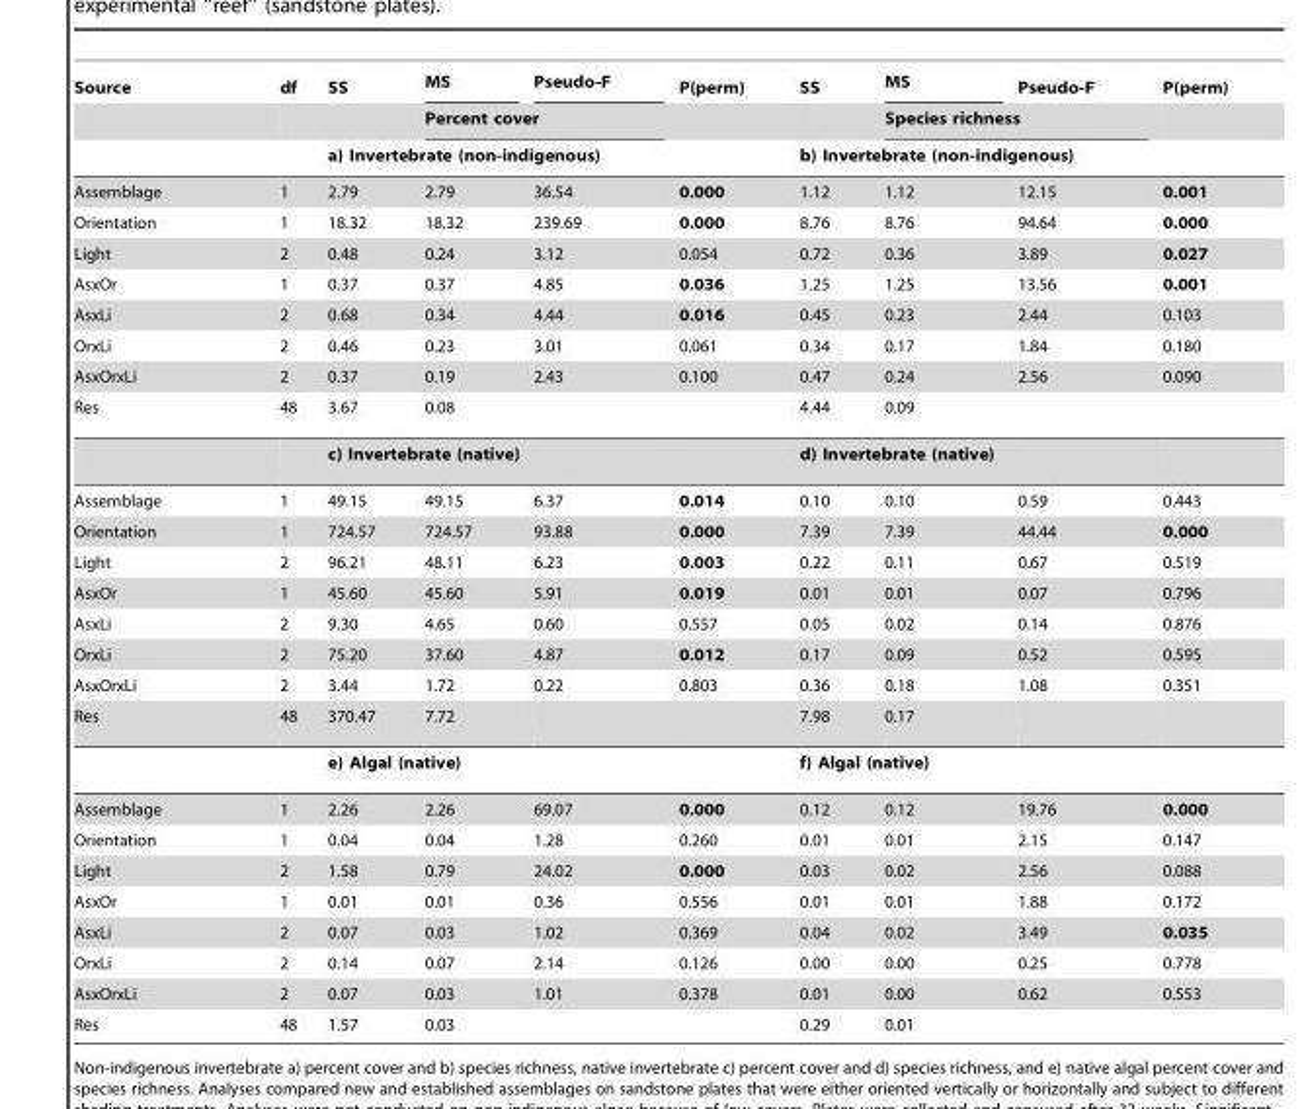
<table><thead><tr><td rowspan="3">Source</td><td rowspan="3">df</td><td rowspan="2">SS</td><td>MS</td><td>Pseudo-F</td><td rowspan="2">P(perm)</td><td rowspan="2">SS</td><td>MS</td><td>Pseudo-F</td><td rowspan="2">P(perm)</td></tr><tr><td colspan="2">Percent cover</td><td colspan="2">Species richness</td></tr><tr><td colspan="4">a) Invertebrate (non-indigenous)</td><td colspan="4">b) Invertebrate (non-indigenous)</td></tr></thead><tbody><tr><td>Assemblage</td><td>1</td><td>2.79</td><td>2.79</td><td>36.54</td><td>0.000</td><td>1.12</td><td>1.12</td><td>12.15</td><td>0.001</td></tr><tr><td>Orientation</td><td>1</td><td>18.32</td><td>18.32</td><td>239.69</td><td>0.000</td><td>8.76</td><td>8.76</td><td>94.64</td><td>0.000</td></tr><tr><td>Light</td><td>2</td><td>0.48</td><td>0.24</td><td>3.12</td><td>0.054</td><td>0.72</td><td>0.36</td><td>3.89</td><td>0.027</td></tr><tr><td>AsxOr</td><td>1</td><td>0.37</td><td>0.37</td><td>4.85</td><td>0.036</td><td>1.25</td><td>1.25</td><td>13.56</td><td>0.001</td></tr><tr><td>AsxLi</td><td>2</td><td>0.68</td><td>0.34</td><td>4.44</td><td>0.016</td><td>0.45</td><td>0.23</td><td>2.44</td><td>0.103</td></tr><tr><td>OrxLi</td><td>2</td><td>0.46</td><td>0.23</td><td>3.01</td><td>0.061</td><td>0.34</td><td>0.17</td><td>1.84</td><td>0.180</td></tr><tr><td>AsxOrxLi</td><td>2</td><td>0.37</td><td>0.19</td><td>2.43</td><td>0.100</td><td>0.47</td><td>0.24</td><td>2.56</td><td>0.090</td></tr><tr><td rowspan="2">Res</td><td>48</td><td>3.67</td><td>0.08</td><td></td><td></td><td>4.44</td><td>0.09</td><td></td><td></td></tr><tr><td></td><td colspan="3">c) Invertebrate (native)</td><td></td><td colspan="3">d) Invertebrate (native)</td><td></td></tr><tr><td>Assemblage</td><td>1</td><td>49.15</td><td>49.15</td><td>6.37</td><td>0.014</td><td>0.10</td><td>0.10</td><td>0.59</td><td>0.443</td></tr><tr><td>Orientation</td><td>1</td><td>724.57</td><td>724.57</td><td>93.88</td><td>0.000</td><td>7.39</td><td>7.39</td><td>44.44</td><td>0.000</td></tr><tr><td>Light</td><td>2</td><td>96.21</td><td>48.11</td><td>6.23</td><td>0.003</td><td>0.22</td><td>0.11</td><td>0.67</td><td>0.519</td></tr><tr><td>AsxOr</td><td>1</td><td>45.60</td><td>45.60</td><td>5.91</td><td>0.019</td><td>0.01</td><td>0.01</td><td>0.07</td><td>0.796</td></tr><tr><td>AsxLi</td><td>2</td><td>9.30</td><td>4.65</td><td>0.60</td><td>0.557</td><td>0.05</td><td>0.02</td><td>0.14</td><td>0.876</td></tr><tr><td>OrxLi</td><td>2</td><td>75.20</td><td>37.60</td><td>4.87</td><td>0.012</td><td>0.17</td><td>0.09</td><td>0.52</td><td>0.595</td></tr><tr><td>AsxOrxLi</td><td>2</td><td>3.44</td><td>1.72</td><td>0.22</td><td>0.803</td><td>0.36</td><td>0.18</td><td>1.08</td><td>0.351</td></tr><tr><td rowspan="2">Res</td><td>48</td><td>370.47</td><td>7.72</td><td></td><td></td><td>7.98</td><td>0.17</td><td></td><td></td></tr><tr><td></td><td colspan="3">e) Algal (native)</td><td></td><td colspan="2">f) Algal (native)</td><td></td><td></td></tr><tr><td>Assemblage</td><td>1</td><td>2.26</td><td>2.26</td><td>69.07</td><td>0.000</td><td>0.12</td><td>0.12</td><td>19.76</td><td>0.000</td></tr><tr><td>Orientation</td><td>1</td><td>0.04</td><td>0.04</td><td>1.28</td><td>0.260</td><td>0.01</td><td>0.01</td><td>2.15</td><td>0.147</td></tr><tr><td>Light</td><td>2</td><td>1.58</td><td>0.79</td><td>24.02</td><td>0.000</td><td>0.03</td><td>0.02</td><td>2.56</td><td>0.088</td></tr><tr><td>AsxOr</td><td>1</td><td>0.01</td><td>0.01</td><td>0.36</td><td>0.556</td><td>0.01</td><td>0.01</td><td>1.88</td><td>0.172</td></tr><tr><td>AsxLi</td><td>2</td><td>0.07</td><td>0.03</td><td>1.02</td><td>0.369</td><td>0.04</td><td>0.02</td><td>3.49</td><td>0.035</td></tr><tr><td>OrxLi</td><td>2</td><td>0.14</td><td>0.07</td><td>2.14</td><td>0.126</td><td>0.00</td><td>0.00</td><td>0.25</td><td>0.778</td></tr><tr><td>AsxOrxLi</td><td>2</td><td>0.07</td><td>0.03</td><td>1.01</td><td>0.378</td><td>0.01</td><td>0.00</td><td>0.62</td><td>0.553</td></tr><tr><td>Res</td><td>48</td><td>1.57</td><td>0.03</td><td></td><td></td><td>0.29</td><td>0.01</td><td></td><td></td></tr></tbody></table>